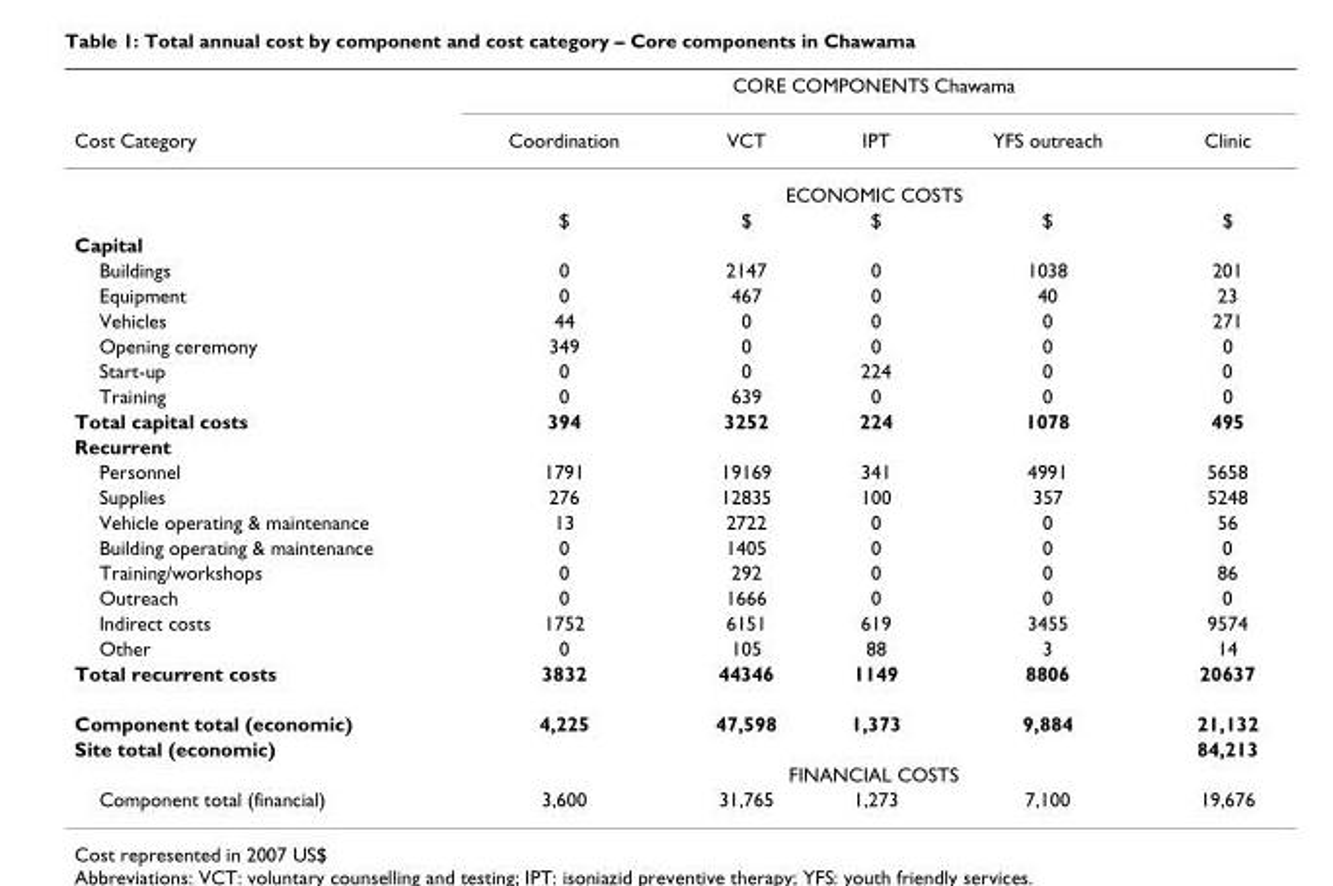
<table><thead><tr><td rowspan="2">Cost Category</td><td colspan="5">CORE COMPONENTS Chawama</td></tr><tr><td>Coordination</td><td>VCT</td><td>IPT</td><td>YFS outreach</td><td>Clinic</td></tr></thead><tbody><tr><td></td><td colspan="5">ECONOMIC COSTS</td></tr><tr><td></td><td>$</td><td>$</td><td>$</td><td>$</td><td>$</td></tr><tr><td colspan="6">Capital</td></tr><tr><td>Buildings</td><td>0</td><td>2147</td><td>0</td><td>1038</td><td>201</td></tr><tr><td>Equipment</td><td>0</td><td>467</td><td>0</td><td>40</td><td>23</td></tr><tr><td>Vehicles</td><td>44</td><td>0</td><td>0</td><td>0</td><td>271</td></tr><tr><td>Opening ceremony</td><td>349</td><td>0</td><td>0</td><td>0</td><td>0</td></tr><tr><td>Start-up</td><td>0</td><td>0</td><td>224</td><td>0</td><td>0</td></tr><tr><td>Training</td><td>0</td><td>639</td><td>0</td><td>0</td><td>0</td></tr><tr><td>Total capital costs</td><td>394</td><td>3252</td><td>224</td><td>1078</td><td>495</td></tr><tr><td colspan="6">Recurrent</td></tr><tr><td>Personnel</td><td>1791</td><td>19169</td><td>341</td><td>4991</td><td>5658</td></tr><tr><td>Supplies</td><td>276</td><td>12835</td><td>100</td><td>357</td><td>5248</td></tr><tr><td>Vehicle operating &amp; maintenance</td><td>13</td><td>2722</td><td>0</td><td>0</td><td>56</td></tr><tr><td>Building operating &amp; maintenance</td><td>0</td><td>1405</td><td>0</td><td>0</td><td>0</td></tr><tr><td>Training/workshops</td><td>0</td><td>292</td><td>0</td><td>0</td><td>86</td></tr><tr><td>Outreach</td><td>0</td><td>1666</td><td>0</td><td>0</td><td>0</td></tr><tr><td>Indirect costs</td><td>1752</td><td>6151</td><td>619</td><td>3455</td><td>9574</td></tr><tr><td>Other</td><td>0</td><td>105</td><td>88</td><td>3</td><td>14</td></tr><tr><td>Total recurrent costs</td><td>3832</td><td>44346</td><td>1149</td><td>8806</td><td>20637</td></tr><tr><td>Component total (economic)</td><td>4,225</td><td>47,598</td><td>1,373</td><td>9,884</td><td>21,132</td></tr><tr><td rowspan="2">Site total (economic)</td><td></td><td></td><td></td><td></td><td>84,213</td></tr><tr><td colspan="5">FINANCIAL COSTS</td></tr><tr><td>Component total (financial)</td><td>3,600</td><td>31,765</td><td>1,273</td><td>7,100</td><td>19,676</td></tr></tbody></table>